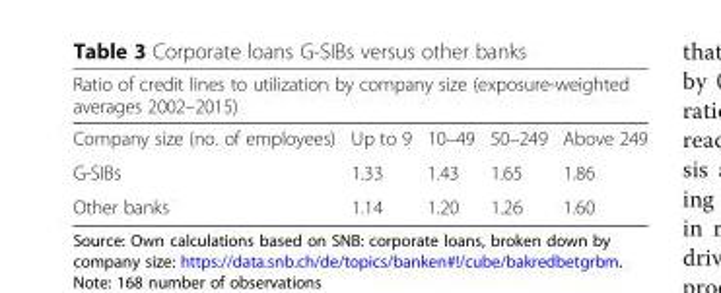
<table><thead><tr><td colspan="5">Ratio of credit lines to utilization by company size (exposure-weighted averages 2002–2015)</td></tr><tr><td>Company size (no. of employees)</td><td>Up to 9</td><td>10–49</td><td>50–249</td><td>Above 249</td></tr></thead><tbody><tr><td>G-SIBs</td><td>1.33</td><td>1.43</td><td>1.65</td><td>1.86</td></tr><tr><td>Other banks</td><td>1.14</td><td>1.20</td><td>1.26</td><td>1.60</td></tr></tbody></table>